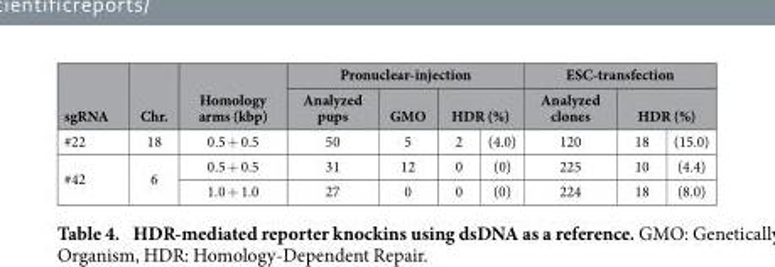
<table><thead><tr><td rowspan="3">sgRNA #22</td><td rowspan="3">Chr. 18</td><td rowspan="3">Homology arms (kbp) 0.5 + 0.5</td><td colspan="4">Pronuclear-injection</td><td colspan="3">ESC-transfection</td></tr><tr><td rowspan="2">Analyzed pups 50</td><td rowspan="2">GMO 5</td><td colspan="2">HDR (%)</td><td rowspan="2">Analyzed clones 120</td><td colspan="2">HDR (%)</td></tr><tr><td>2</td><td>(4.0)</td><td>18</td><td>(15.0)</td></tr></thead><tbody><tr><td rowspan="2">#42</td><td rowspan="2">6</td><td>0.5 + 0.5</td><td>31</td><td>12</td><td>0</td><td>(0)</td><td>225</td><td>10</td><td>(4.4)</td></tr><tr><td>1.0 + 1.0</td><td>27</td><td>0</td><td>0</td><td>(0)</td><td>224</td><td>18</td><td>(8.0)</td></tr></tbody></table>